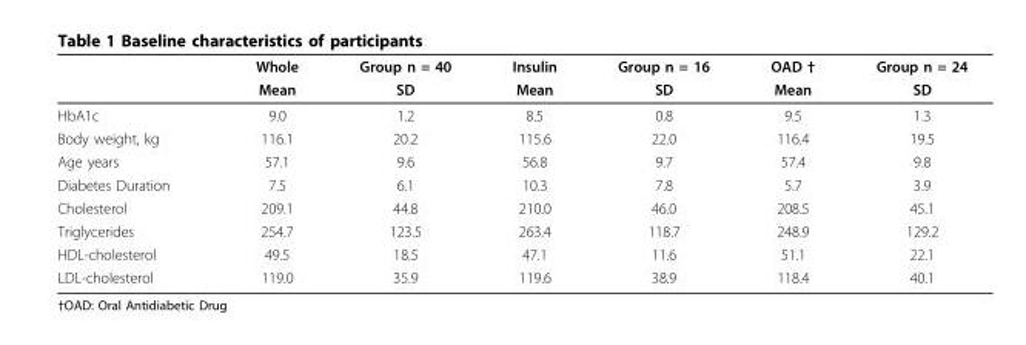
<table><thead><tr><td rowspan="2"></td><td rowspan="2">Whole Mean</td><td rowspan="2">Group n = 40 SD</td><td rowspan="2">Insulin Mean</td><td rowspan="2">Group n = 16 SD</td><td rowspan="2">OAD † Mean</td><td rowspan="2">Group n = 24 SD</td></tr><tr></tr></thead><tbody><tr><td>HbA1c</td><td>9.0</td><td>1.2</td><td>8.5</td><td>0.8</td><td>9.5</td><td>1.3</td></tr><tr><td>Body weight, kg</td><td>116.1</td><td>20.2</td><td>115.6</td><td>22.0</td><td>116.4</td><td>19.5</td></tr><tr><td>Age years</td><td>57.1</td><td>9.6</td><td>56.8</td><td>9.7</td><td>57.4</td><td>9.8</td></tr><tr><td>Diabetes Duration</td><td>7.5</td><td>6.1</td><td>10.3</td><td>7.8</td><td>5.7</td><td>3.9</td></tr><tr><td>Cholesterol</td><td>209.1</td><td>44.8</td><td>210.0</td><td>46.0</td><td>208.5</td><td>45.1</td></tr><tr><td>Triglycerides</td><td>254.7</td><td>123.5</td><td>263.4</td><td>118.7</td><td>248.9</td><td>129.2</td></tr><tr><td>HDL-cholesterol</td><td>49.5</td><td>18.5</td><td>47.1</td><td>11.6</td><td>51.1</td><td>22.1</td></tr><tr><td>LDL-cholesterol</td><td>119.0</td><td>35.9</td><td>119.6</td><td>38.9</td><td>118.4</td><td>40.1</td></tr></tbody></table>